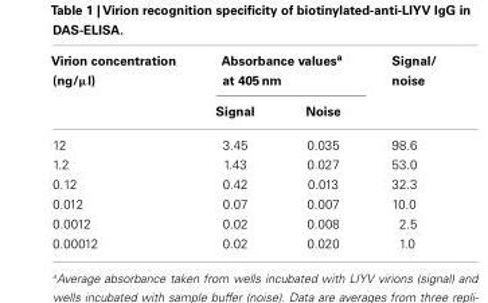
<table><thead><tr><td rowspan="2">Virion concentration (ng/µl)</td><td colspan="2">Absorbance values<sup>a</sup> at 405 nm</td><td rowspan="2">Signal/ noise</td></tr><tr><td>Signal</td><td>Noise</td></tr></thead><tbody><tr><td>12</td><td>3.45</td><td>0.035</td><td>98.6</td></tr><tr><td>1.2</td><td>1.43</td><td>0.027</td><td>53.0</td></tr><tr><td>0.12</td><td>0.42</td><td>0.013</td><td>32.3</td></tr><tr><td>0.012</td><td>0.07</td><td>0.007</td><td>10.0</td></tr><tr><td>0.0012</td><td>0.02</td><td>0.008</td><td>2.5</td></tr><tr><td>0.00012</td><td>0.02</td><td>0.020</td><td>1.0</td></tr></tbody></table>